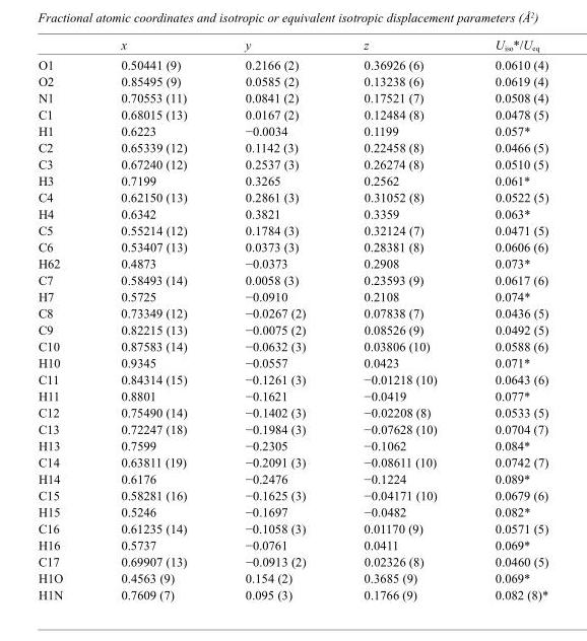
<table><thead><tr><td></td><td>x</td><td>y</td><td>z</td><td>U<sub>iso</sub>*/U<sub>eq</sub></td></tr></thead><tbody><tr><td>O1</td><td>0.50441 (9)</td><td>0.2166 (2)</td><td>0.36926 (6)</td><td>0.0610 (4)</td></tr><tr><td>O2</td><td>0.85495 (9)</td><td>0.0585 (2)</td><td>0.13238 (6)</td><td>0.0619 (4)</td></tr><tr><td>N1</td><td>0.70553 (11)</td><td>0.0841 (2)</td><td>0.17521 (7)</td><td>0.0508 (4)</td></tr><tr><td>C1</td><td>0.68015 (13)</td><td>0.0167 (2)</td><td>0.12484 (8)</td><td>0.0478 (5)</td></tr><tr><td>H1</td><td>0.6223</td><td>−0.0034</td><td>0.1199</td><td>0.057*</td></tr><tr><td>C2</td><td>0.65339 (12)</td><td>0.1142 (3)</td><td>0.22458 (8)</td><td>0.0466 (5)</td></tr><tr><td>C3</td><td>0.67240 (12)</td><td>0.2537 (3)</td><td>0.26274 (8)</td><td>0.0510 (5)</td></tr><tr><td>H3</td><td>0.7199</td><td>0.3265</td><td>0.2562</td><td>0.061*</td></tr><tr><td>C4</td><td>0.62150 (13)</td><td>0.2861 (3)</td><td>0.31052 (8)</td><td>0.0522 (5)</td></tr><tr><td>H4</td><td>0.6342</td><td>0.3821</td><td>0.3359</td><td>0.063*</td></tr><tr><td>C5</td><td>0.55214 (12)</td><td>0.1784 (3)</td><td>0.32124 (7)</td><td>0.0471 (5)</td></tr><tr><td>C6</td><td>0.53407 (13)</td><td>0.0373 (3)</td><td>0.28381 (8)</td><td>0.0606 (6)</td></tr><tr><td>H62</td><td>0.4873</td><td>−0.0373</td><td>0.2908</td><td>0.073*</td></tr><tr><td>C7</td><td>0.58493 (14)</td><td>0.0058 (3)</td><td>0.23593 (9)</td><td>0.0617 (6)</td></tr><tr><td>H7</td><td>0.5725</td><td>−0.0910</td><td>0.2108</td><td>0.074*</td></tr><tr><td>C8</td><td>0.73349 (12)</td><td>−0.0267 (2)</td><td>0.07838 (7)</td><td>0.0436 (5)</td></tr><tr><td>C9</td><td>0.82215 (13)</td><td>−0.0075 (2)</td><td>0.08526 (9)</td><td>0.0492 (5)</td></tr><tr><td>C10</td><td>0.87583 (14)</td><td>−0.0632 (3)</td><td>0.03806 (10)</td><td>0.0588 (6)</td></tr><tr><td>H10</td><td>0.9345</td><td>−0.0557</td><td>0.0423</td><td>0.071*</td></tr><tr><td>C11</td><td>0.84314 (15)</td><td>−0.1261 (3)</td><td>−0.01218 (10)</td><td>0.0643 (6)</td></tr><tr><td>H11</td><td>0.8801</td><td>−0.1621</td><td>−0.0419</td><td>0.077*</td></tr><tr><td>C12</td><td>0.75490 (14)</td><td>−0.1402 (3)</td><td>−0.02208 (8)</td><td>0.0533 (5)</td></tr><tr><td>C13</td><td>0.72247 (18)</td><td>−0.1984 (3)</td><td>−0.07628 (10)</td><td>0.0704 (7)</td></tr><tr><td>H13</td><td>0.7599</td><td>−0.2305</td><td>−0.1062</td><td>0.084*</td></tr><tr><td>C14</td><td>0.63811 (19)</td><td>−0.2091 (3)</td><td>−0.08611 (10)</td><td>0.0742 (7)</td></tr><tr><td>H14</td><td>0.6176</td><td>−0.2476</td><td>−0.1224</td><td>0.089*</td></tr><tr><td>C15</td><td>0.58281 (16)</td><td>−0.1625 (3)</td><td>−0.04171 (10)</td><td>0.0679 (6)</td></tr><tr><td>H15</td><td>0.5246</td><td>−0.1697</td><td>−0.0482</td><td>0.082*</td></tr><tr><td>C16</td><td>0.61235 (14)</td><td>−0.1058 (3)</td><td>0.01170 (9)</td><td>0.0571 (5)</td></tr><tr><td>H16</td><td>0.5737</td><td>−0.0761</td><td>0.0411</td><td>0.069*</td></tr><tr><td>C17</td><td>0.69907 (13)</td><td>−0.0913 (2)</td><td>0.02326 (8)</td><td>0.0460 (5)</td></tr><tr><td>H1O</td><td>0.4563 (9)</td><td>0.154 (2)</td><td>0.3685 (9)</td><td>0.069*</td></tr><tr><td>H1N</td><td>0.7609 (7)</td><td>0.095 (3)</td><td>0.1766 (9)</td><td>0.082 (8)*</td></tr></tbody></table>